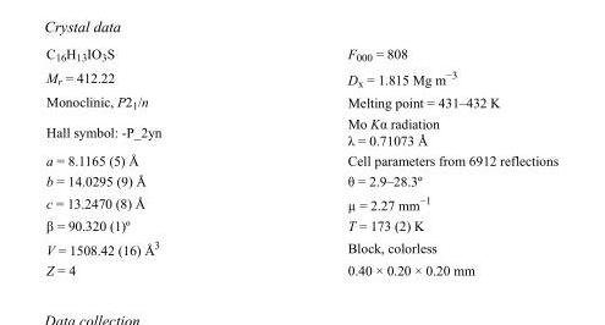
<table><tbody><tr><td>C<sub>16</sub>H<sub>13</sub>IO<sub>3</sub>S</td><td>F<sub>000</sub> = 808</td></tr><tr><td>M<sub>r</sub> = 412.22</td><td>D<sub>x</sub> = 1.815 Mg m<sup>−3</sup></td></tr><tr><td>Monoclinic, P2<sub>1</sub>/n</td><td>Melting point = 431–432 K</td></tr><tr><td>Hall symbol: -P_2yn</td><td>Mo Kα radiation λ = 0.71073 Å</td></tr><tr><td>a = 8.1165 (5) Å</td><td>Cell parameters from 6912 reflections</td></tr><tr><td>b = 14.0295 (9) Å</td><td>θ = 2.9–28.3º</td></tr><tr><td>c = 13.2470 (8) Å</td><td>µ = 2.27 mm<sup>−1</sup></td></tr><tr><td>β = 90.320 (1)º</td><td>T = 173 (2) K</td></tr><tr><td>V = 1508.42 (16) Å<sup>3</sup></td><td>Block, colorless</td></tr><tr><td>Z = 4</td><td>0.40 × 0.20 × 0.20 mm</td></tr></tbody></table>